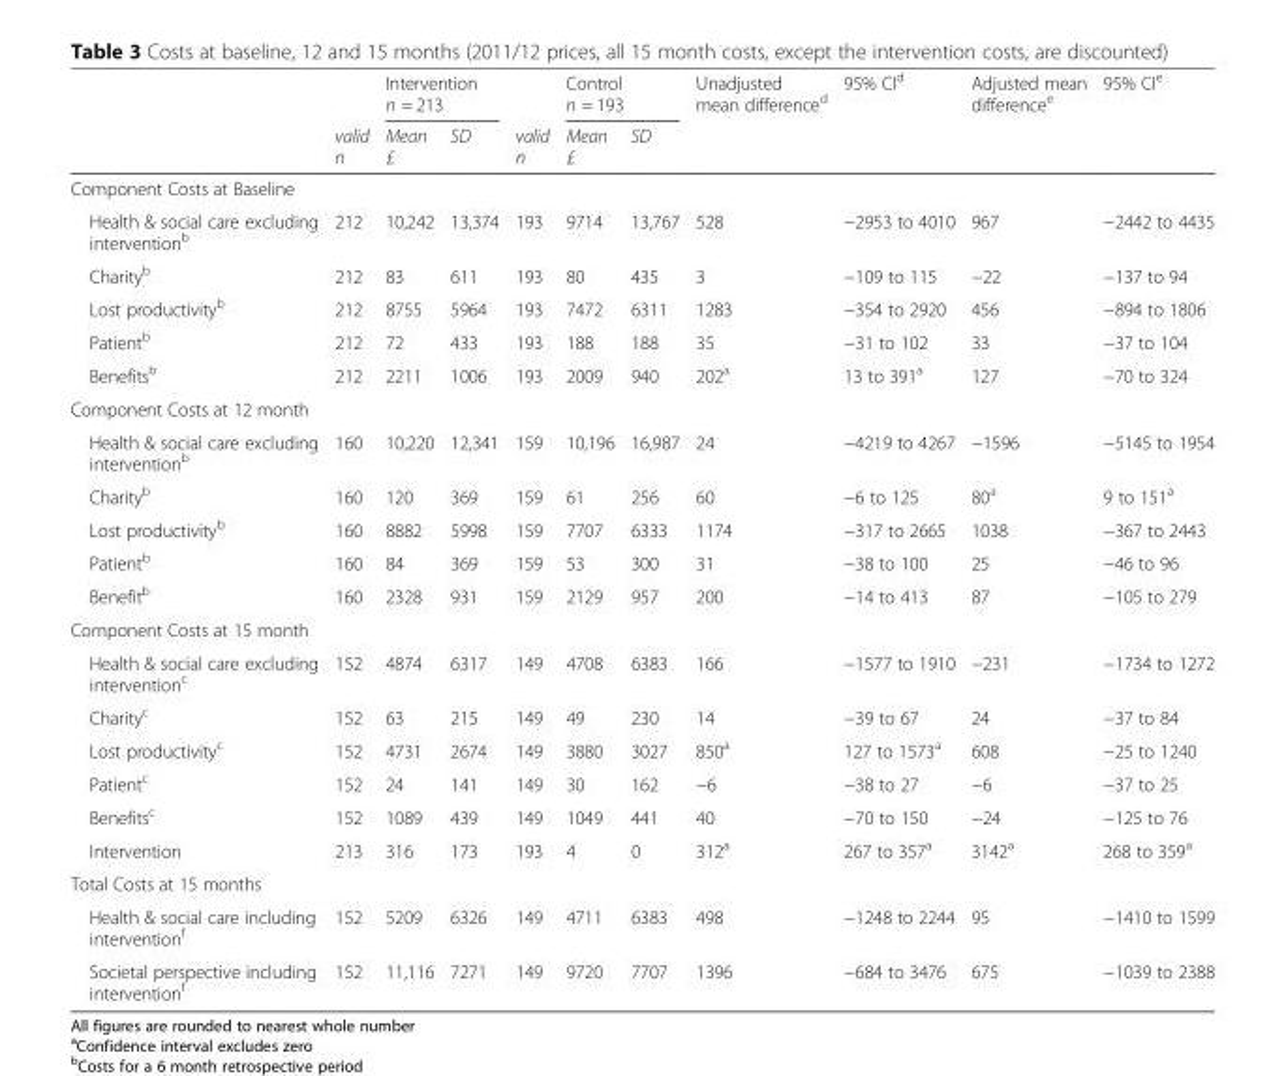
<table><thead><tr><td rowspan="2"></td><td rowspan="2">valid n</td><td colspan="2">Intervention n = 213</td><td rowspan="2">valid n</td><td colspan="2">Control n = 193</td><td rowspan="2">Unadjusted mean difference<sup>d</sup></td><td rowspan="2">95% CI<sup>d</sup></td><td rowspan="2">Adjusted mean difference<sup>e</sup></td><td rowspan="2">95% CI<sup>e</sup></td></tr><tr><td>Mean £</td><td>SD</td><td>Mean £</td><td>SD</td></tr></thead><tbody><tr><td colspan="11">Component Costs at Baseline</td></tr><tr><td>Health &amp; social care excluding intervention<sup>b</sup></td><td>212</td><td>10,242</td><td>13,374</td><td>193</td><td>9714</td><td>13,767</td><td>528</td><td>−2953 to 4010</td><td>967</td><td>−2442 to 4435</td></tr><tr><td>Charity<sup>b</sup></td><td>212</td><td>83</td><td>611</td><td>193</td><td>80</td><td>435</td><td>3</td><td>−109 to 115</td><td>−22</td><td>−137 to 94</td></tr><tr><td>Lost productivity<sup>b</sup></td><td>212</td><td>8755</td><td>5964</td><td>193</td><td>7472</td><td>6311</td><td>1283</td><td>−354 to 2920</td><td>456</td><td>−894 to 1806</td></tr><tr><td>Patient<sup>b</sup></td><td>212</td><td>72</td><td>433</td><td>193</td><td>188</td><td>188</td><td>35</td><td>−31 to 102</td><td>33</td><td>−37 to 104</td></tr><tr><td>Benefits<sup>b</sup></td><td>212</td><td>2211</td><td>1006</td><td>193</td><td>2009</td><td>940</td><td>202<sup>a</sup></td><td>13 to 391<sup>a</sup></td><td>127</td><td>−70 to 324</td></tr><tr><td colspan="11">Component Costs at 12 month</td></tr><tr><td>Health &amp; social care excluding intervention<sup>b</sup></td><td>160</td><td>10,220</td><td>12,341</td><td>159</td><td>10,196</td><td>16,987</td><td>24</td><td>−4219 to 4267</td><td>−1596</td><td>−5145 to 1954</td></tr><tr><td>Charity<sup>b</sup></td><td>160</td><td>120</td><td>369</td><td>159</td><td>61</td><td>256</td><td>60</td><td>−6 to 125</td><td>80<sup>a</sup></td><td>9 to 151<sup>a</sup></td></tr><tr><td>Lost productivity<sup>b</sup></td><td>160</td><td>8882</td><td>5998</td><td>159</td><td>7707</td><td>6333</td><td>1174</td><td>−317 to 2665</td><td>1038</td><td>−367 to 2443</td></tr><tr><td>Patient<sup>b</sup></td><td>160</td><td>84</td><td>369</td><td>159</td><td>53</td><td>300</td><td>31</td><td>−38 to 100</td><td>25</td><td>−46 to 96</td></tr><tr><td>Benefit<sup>b</sup></td><td>160</td><td>2328</td><td>931</td><td>159</td><td>2129</td><td>957</td><td>200</td><td>−14 to 413</td><td>87</td><td>−105 to 279</td></tr><tr><td colspan="11">Component Costs at 15 month</td></tr><tr><td>Health &amp; social care excluding intervention<sup>c</sup></td><td>152</td><td>4874</td><td>6317</td><td>149</td><td>4708</td><td>6383</td><td>166</td><td>−1577 to 1910</td><td>−231</td><td>−1734 to 1272</td></tr><tr><td>Charity<sup>c</sup></td><td>152</td><td>63</td><td>215</td><td>149</td><td>49</td><td>230</td><td>14</td><td>−39 to 67</td><td>24</td><td>−37 to 84</td></tr><tr><td>Lost productivity<sup>c</sup></td><td>152</td><td>4731</td><td>2674</td><td>149</td><td>3880</td><td>3027</td><td>850<sup>a</sup></td><td>127 to 1573<sup>a</sup></td><td>608</td><td>−25 to 1240</td></tr><tr><td>Patient<sup>c</sup></td><td>152</td><td>24</td><td>141</td><td>149</td><td>30</td><td>162</td><td>−6</td><td>−38 to 27</td><td>−6</td><td>−37 to 25</td></tr><tr><td>Benefits<sup>c</sup></td><td>152</td><td>1089</td><td>439</td><td>149</td><td>1049</td><td>441</td><td>40</td><td>−70 to 150</td><td>−24</td><td>−125 to 76</td></tr><tr><td>Intervention</td><td>213</td><td>316</td><td>173</td><td>193</td><td>4</td><td>0</td><td>312<sup>a</sup></td><td>267 to 357<sup>a</sup></td><td>3142<sup>a</sup></td><td>268 to 359<sup>a</sup></td></tr><tr><td colspan="11">Total Costs at 15 months</td></tr><tr><td>Health &amp; social care including intervention<sup>f</sup></td><td>152</td><td>5209</td><td>6326</td><td>149</td><td>4711</td><td>6383</td><td>498</td><td>−1248 to 2244</td><td>95</td><td>−1410 to 1599</td></tr><tr><td>Societal perspective including intervention<sup>f</sup></td><td>152</td><td>11,116</td><td>7271</td><td>149</td><td>9720</td><td>7707</td><td>1396</td><td>−684 to 3476</td><td>675</td><td>−1039 to 2388</td></tr></tbody></table>